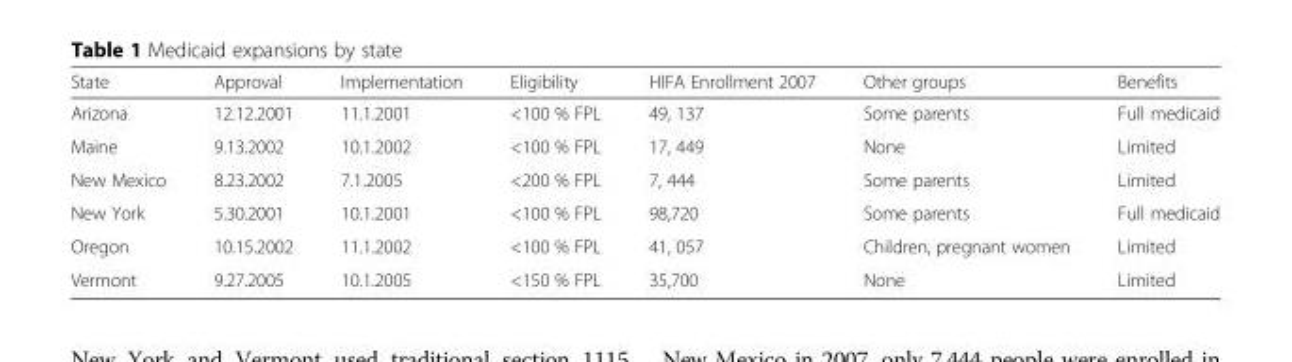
<table><thead><tr><td>State</td><td>Approval</td><td>Implementation</td><td>Eligibility</td><td>HIFA Enrollment 2007</td><td>Other groups</td><td>Benefits</td></tr></thead><tbody><tr><td>Arizona</td><td>12.12.2001</td><td>11.1.2001</td><td>&lt;100 % FPL</td><td>49, 137</td><td>Some parents</td><td>Full medicaid</td></tr><tr><td>Maine</td><td>9.13.2002</td><td>10.1.2002</td><td>&lt;100 % FPL</td><td>17, 449</td><td>None</td><td>Limited</td></tr><tr><td>New Mexico</td><td>8.23.2002</td><td>7.1.2005</td><td>&lt;200 % FPL</td><td>7, 444</td><td>Some parents</td><td>Limited</td></tr><tr><td>New York</td><td>5.30.2001</td><td>10.1.2001</td><td>&lt;100 % FPL</td><td>98,720</td><td>Some parents</td><td>Full medicaid</td></tr><tr><td>Oregon</td><td>10.15.2002</td><td>11.1.2002</td><td>&lt;100 % FPL</td><td>41, 057</td><td>Children, pregnant women</td><td>Limited</td></tr><tr><td>Vermont</td><td>9.27.2005</td><td>10.1.2005</td><td>&lt;150 % FPL</td><td>35,700</td><td>None</td><td>Limited</td></tr></tbody></table>